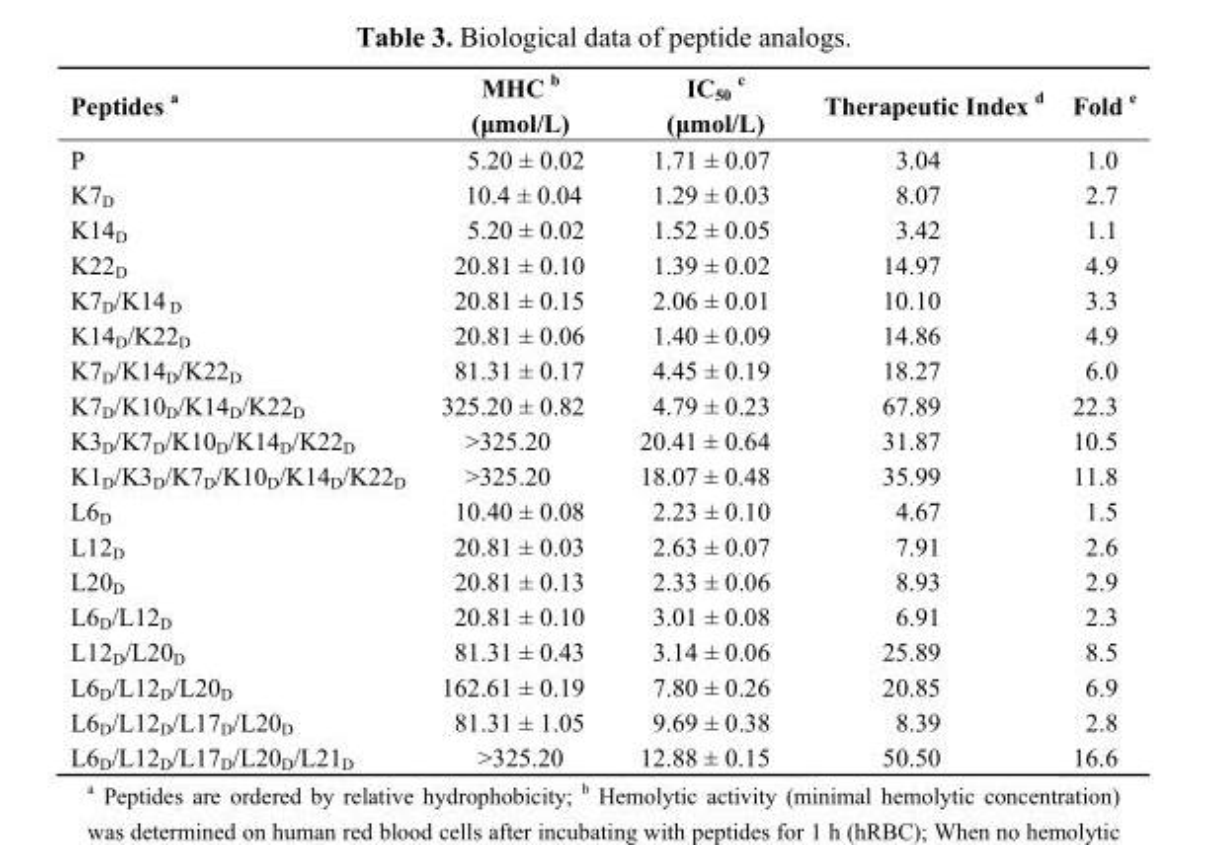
<table><thead><tr><td>Peptides a</td><td>MHC b (μmol/L)</td><td>IC<sub>50</sub> c (μmol/L)</td><td>Therapeutic Index d</td><td>Fold e</td></tr></thead><tbody><tr><td>P</td><td>5.20 ± 0.02</td><td>1.71 ± 0.07</td><td>3.04</td><td>1.0</td></tr><tr><td>K7<sub>D</sub></td><td>10.4 ± 0.04</td><td>1.29 ± 0.03</td><td>8.07</td><td>2.7</td></tr><tr><td>K14<sub>D</sub></td><td>5.20 ± 0.02</td><td>1.52 ± 0.05</td><td>3.42</td><td>1.1</td></tr><tr><td>K22<sub>D</sub></td><td>20.81 ± 0.10</td><td>1.39 ± 0.02</td><td>14.97</td><td>4.9</td></tr><tr><td>K7<sub>D</sub>/K14 <sub>D</sub></td><td>20.81 ± 0.15</td><td>2.06 ± 0.01</td><td>10.10</td><td>3.3</td></tr><tr><td>K14<sub>D</sub>/K22<sub>D</sub></td><td>20.81 ± 0.06</td><td>1.40 ± 0.09</td><td>14.86</td><td>4.9</td></tr><tr><td>K7<sub>D</sub>/K14<sub>D</sub>/K22<sub>D</sub></td><td>81.31 ± 0.17</td><td>4.45 ± 0.19</td><td>18.27</td><td>6.0</td></tr><tr><td>K7<sub>D</sub>/K10<sub>D</sub>/K14<sub>D</sub>/K22<sub>D</sub></td><td>325.20 ± 0.82</td><td>4.79 ± 0.23</td><td>67.89</td><td>22.3</td></tr><tr><td>K3<sub>D</sub>/K7<sub>D</sub>/K10<sub>D</sub>/K14<sub>D</sub>/K22<sub>D</sub></td><td>&gt;325.20</td><td>20.41 ± 0.64</td><td>31.87</td><td>10.5</td></tr><tr><td>K1<sub>D</sub>/K3<sub>D</sub>/K7<sub>D</sub>/K10<sub>D</sub>/K14<sub>D</sub>/K22<sub>D</sub></td><td>&gt;325.20</td><td>18.07 ± 0.48</td><td>35.99</td><td>11.8</td></tr><tr><td>L6<sub>D</sub></td><td>10.40 ± 0.08</td><td>2.23 ± 0.10</td><td>4.67</td><td>1.5</td></tr><tr><td>L12<sub>D</sub></td><td>20.81 ± 0.03</td><td>2.63 ± 0.07</td><td>7.91</td><td>2.6</td></tr><tr><td>L20<sub>D</sub></td><td>20.81 ± 0.13</td><td>2.33 ± 0.06</td><td>8.93</td><td>2.9</td></tr><tr><td>L6<sub>D</sub>/L12<sub>D</sub></td><td>20.81 ± 0.10</td><td>3.01 ± 0.08</td><td>6.91</td><td>2.3</td></tr><tr><td>L12<sub>D</sub>/L20<sub>D</sub></td><td>81.31 ± 0.43</td><td>3.14 ± 0.06</td><td>25.89</td><td>8.5</td></tr><tr><td>L6<sub>D</sub>/L12<sub>D</sub>/L20<sub>D</sub></td><td>162.61 ± 0.19</td><td>7.80 ± 0.26</td><td>20.85</td><td>6.9</td></tr><tr><td>L6<sub>D</sub>/L12<sub>D</sub>/L17<sub>D</sub>/L20<sub>D</sub></td><td>81.31 ± 1.05</td><td>9.69 ± 0.38</td><td>8.39</td><td>2.8</td></tr><tr><td>L6<sub>D</sub>/L12<sub>D</sub>/L17<sub>D</sub>/L20<sub>D</sub>/L21<sub>D</sub></td><td>&gt;325.20</td><td>12.88 ± 0.15</td><td>50.50</td><td>16.6</td></tr></tbody></table>